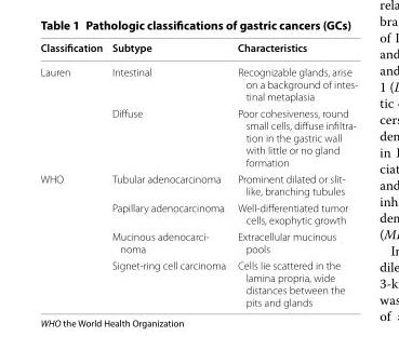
<table><thead><tr><td>Classification</td><td>Subtype</td><td>Characteristics</td></tr></thead><tbody><tr><td rowspan="2">Lauren</td><td>Intestinal</td><td>Recognizable glands, arise on a background of intes‑ tinal metaplasia</td></tr><tr><td>Diffuse</td><td>Poor cohesiveness, round small cells, diffuse infiltra‑ tion in the gastric wall with little or no gland formation</td></tr><tr><td rowspan="4">WHO</td><td>Tubular adenocarcinoma</td><td>Prominent dilated or slit‑ like, branching tubules</td></tr><tr><td>Papillary adenocarcinoma</td><td>Well‑differentiated tumor cells, exophytic growth</td></tr><tr><td>Mucinous adenocarci‑ noma</td><td>Extracellular mucinous pools</td></tr><tr><td>Signet‑ring cell carcinoma</td><td>Cells lie scattered in the lamina propria, wide distances between the pits and glands</td></tr></tbody></table>